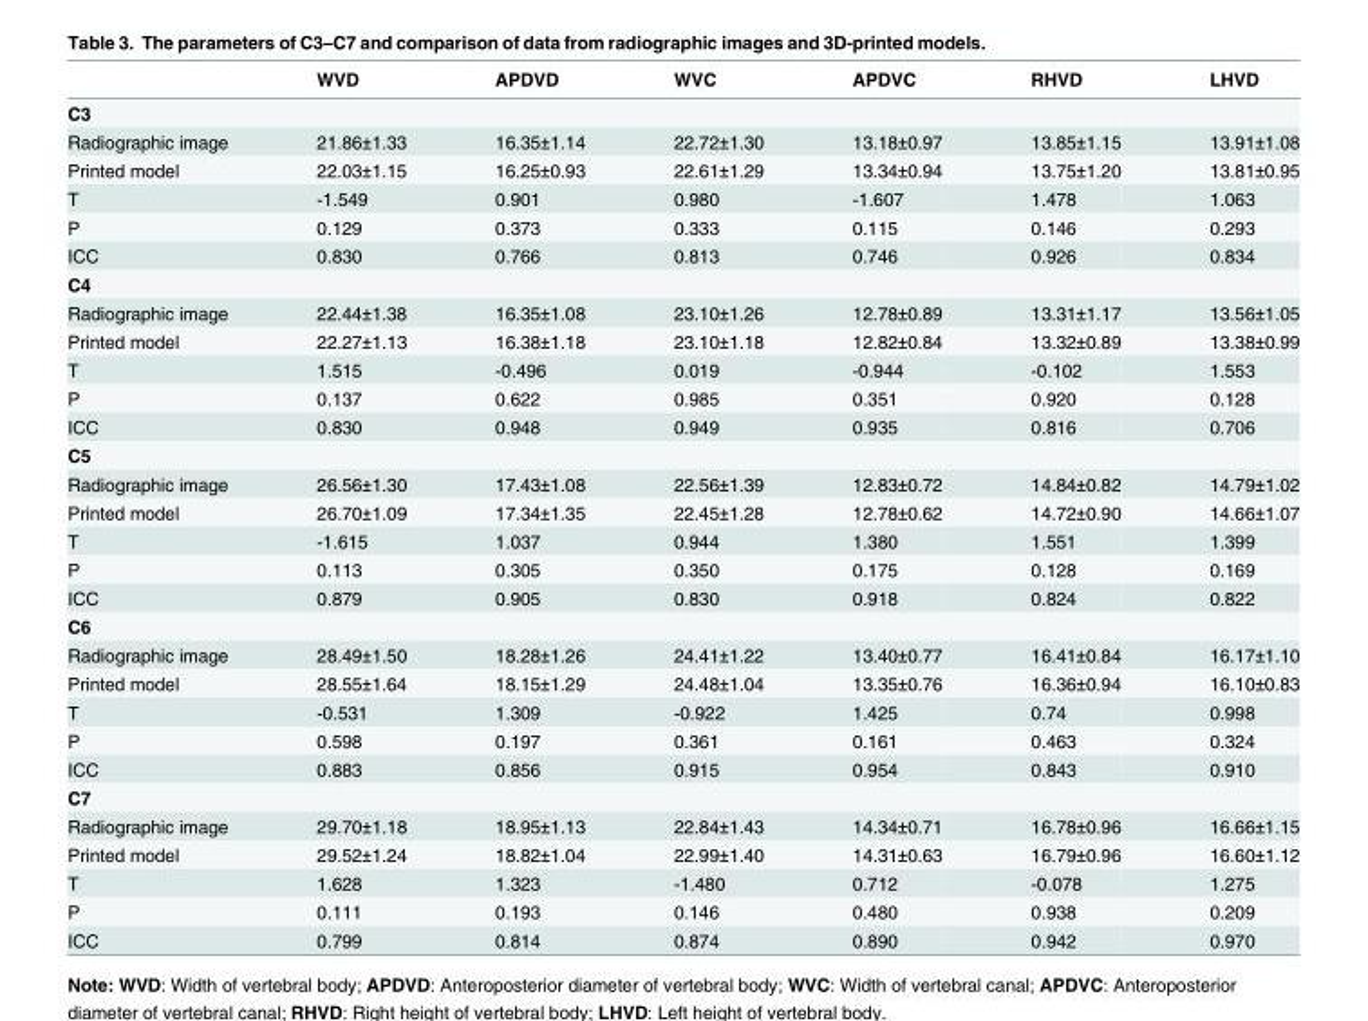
<table><thead><tr><td></td><td>WVD</td><td>APDVD</td><td>WVC</td><td>APDVC</td><td>RHVD</td><td>LHVD</td></tr></thead><tbody><tr><td colspan="7">C3</td></tr><tr><td>Radiographic image</td><td>21.86±1.33</td><td>16.35±1.14</td><td>22.72±1.30</td><td>13.18±0.97</td><td>13.85±1.15</td><td>13.91±1.08</td></tr><tr><td>Printed model</td><td>22.03±1.15</td><td>16.25±0.93</td><td>22.61±1.29</td><td>13.34±0.94</td><td>13.75±1.20</td><td>13.81±0.95</td></tr><tr><td>T</td><td>-1.549</td><td>0.901</td><td>0.980</td><td>-1.607</td><td>1.478</td><td>1.063</td></tr><tr><td>P</td><td>0.129</td><td>0.373</td><td>0.333</td><td>0.115</td><td>0.146</td><td>0.293</td></tr><tr><td>ICC</td><td>0.830</td><td>0.766</td><td>0.813</td><td>0.746</td><td>0.926</td><td>0.834</td></tr><tr><td colspan="7">C4</td></tr><tr><td>Radiographic image</td><td>22.44±1.38</td><td>16.35±1.08</td><td>23.10±1.26</td><td>12.78±0.89</td><td>13.31±1.17</td><td>13.56±1.05</td></tr><tr><td>Printed model</td><td>22.27±1.13</td><td>16.38±1.18</td><td>23.10±1.18</td><td>12.82±0.84</td><td>13.32±0.89</td><td>13.38±0.99</td></tr><tr><td>T</td><td>1.515</td><td>-0.496</td><td>0.019</td><td>-0.944</td><td>-0.102</td><td>1.553</td></tr><tr><td>P</td><td>0.137</td><td>0.622</td><td>0.985</td><td>0.351</td><td>0.920</td><td>0.128</td></tr><tr><td>ICC</td><td>0.830</td><td>0.948</td><td>0.949</td><td>0.935</td><td>0.816</td><td>0.706</td></tr><tr><td colspan="7">C5</td></tr><tr><td>Radiographic image</td><td>26.56±1.30</td><td>17.43±1.08</td><td>22.56±1.39</td><td>12.83±0.72</td><td>14.84±0.82</td><td>14.79±1.02</td></tr><tr><td>Printed model</td><td>26.70±1.09</td><td>17.34±1.35</td><td>22.45±1.28</td><td>12.78±0.62</td><td>14.72±0.90</td><td>14.66±1.07</td></tr><tr><td>T</td><td>-1.615</td><td>1.037</td><td>0.944</td><td>1.380</td><td>1.551</td><td>1.399</td></tr><tr><td>P</td><td>0.113</td><td>0.305</td><td>0.350</td><td>0.175</td><td>0.128</td><td>0.169</td></tr><tr><td>ICC</td><td>0.879</td><td>0.905</td><td>0.830</td><td>0.918</td><td>0.824</td><td>0.822</td></tr><tr><td colspan="7">C6</td></tr><tr><td>Radiographic image</td><td>28.49±1.50</td><td>18.28±1.26</td><td>24.41±1.22</td><td>13.40±0.77</td><td>16.41±0.84</td><td>16.17±1.10</td></tr><tr><td>Printed model</td><td>28.55±1.64</td><td>18.15±1.29</td><td>24.48±1.04</td><td>13.35±0.76</td><td>16.36±0.94</td><td>16.10±0.83</td></tr><tr><td>T</td><td>-0.531</td><td>1.309</td><td>-0.922</td><td>1.425</td><td>0.74</td><td>0.998</td></tr><tr><td>P</td><td>0.598</td><td>0.197</td><td>0.361</td><td>0.161</td><td>0.463</td><td>0.324</td></tr><tr><td>ICC</td><td>0.883</td><td>0.856</td><td>0.915</td><td>0.954</td><td>0.843</td><td>0.910</td></tr><tr><td colspan="7">C7</td></tr><tr><td>Radiographic image</td><td>29.70±1.18</td><td>18.95±1.13</td><td>22.84±1.43</td><td>14.34±0.71</td><td>16.78±0.96</td><td>16.66±1.15</td></tr><tr><td>Printed model</td><td>29.52±1.24</td><td>18.82±1.04</td><td>22.99±1.40</td><td>14.31±0.63</td><td>16.79±0.96</td><td>16.60±1.12</td></tr><tr><td>T</td><td>1.628</td><td>1.323</td><td>-1.480</td><td>0.712</td><td>-0.078</td><td>1.275</td></tr><tr><td>P</td><td>0.111</td><td>0.193</td><td>0.146</td><td>0.480</td><td>0.938</td><td>0.209</td></tr><tr><td>ICC</td><td>0.799</td><td>0.814</td><td>0.874</td><td>0.890</td><td>0.942</td><td>0.970</td></tr></tbody></table>